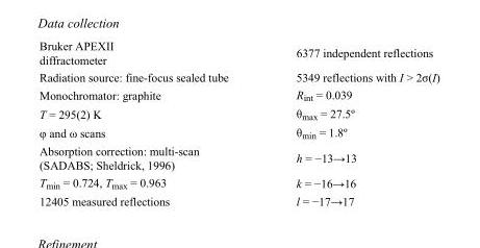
<table><tbody><tr><td>Bruker APEXII diffractometer</td><td>6377 independent reflections</td></tr><tr><td>Radiation source: fine-focus sealed tube</td><td>5349 reflections with I &gt; 2σ(I)</td></tr><tr><td>Monochromator: graphite</td><td>R<sub>int</sub> = 0.039</td></tr><tr><td>T = 295(2) K</td><td>θ<sub>max</sub> = 27.5º</td></tr><tr><td>φ and ω scans</td><td>θ<sub>min</sub> = 1.8º</td></tr><tr><td>Absorption correction: multi-scan (SADABS; Sheldrick, 1996)</td><td>h = −13→13</td></tr><tr><td>T<sub>min</sub> = 0.724, T<sub>max</sub> = 0.963</td><td>k = −16→16</td></tr><tr><td>12405 measured reflections</td><td>l = −17→17</td></tr></tbody></table>